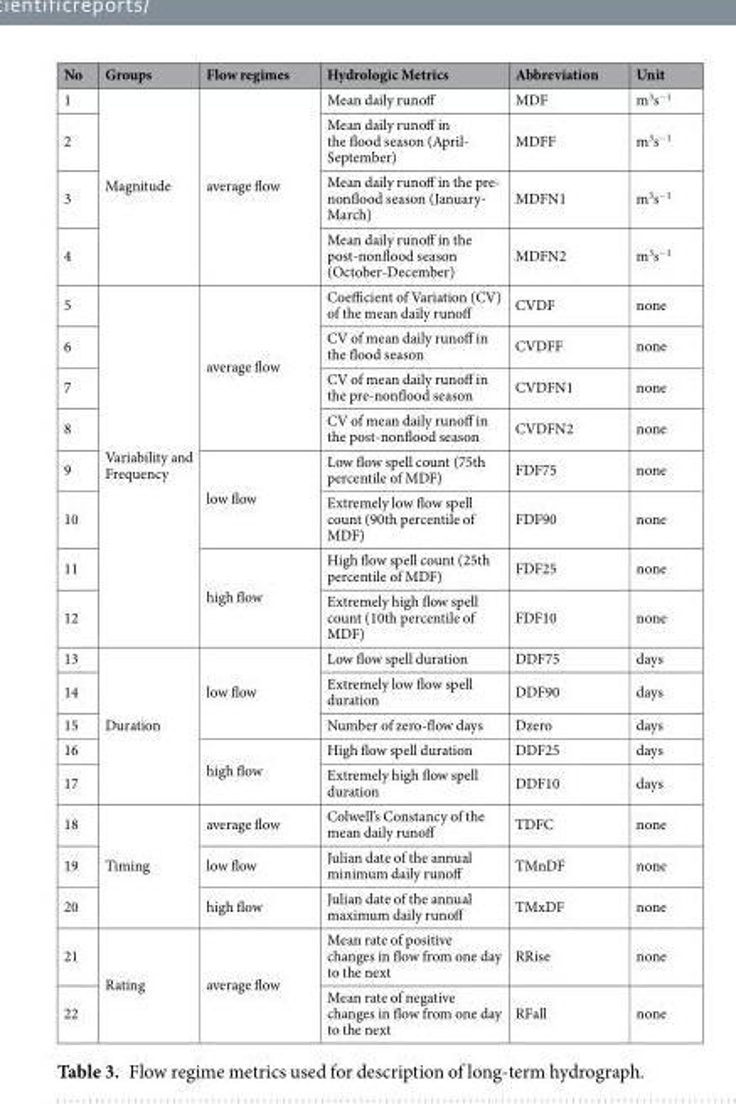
<table><thead><tr><td>No</td><td>Groups</td><td>Flow regimes</td><td>Hydrologic Metrics</td><td>Abbreviation</td><td>Unit</td></tr></thead><tbody><tr><td>1</td><td rowspan="4">Magnitude</td><td rowspan="4">average flow</td><td>Mean daily runoff</td><td>MDF</td><td>m<sup>3</sup>s<sup>−1</sup></td></tr><tr><td>2</td><td>Mean daily runoff in the flood season (April- September)</td><td>MDFF</td><td>m<sup>3</sup>s<sup>−1</sup></td></tr><tr><td>3</td><td>Mean daily runoff in the pre- nonflood season (January- March)</td><td>MDFN1</td><td>m<sup>3</sup>s<sup>−1</sup></td></tr><tr><td>4</td><td>Mean daily runoff in the post-nonflood season (October-December)</td><td>MDFN2</td><td>m<sup>3</sup>s<sup>−1</sup></td></tr><tr><td>5</td><td rowspan="8">Variability and Frequency</td><td rowspan="4">average flow</td><td>Coefficient of Variation (CV) of the mean daily runoff</td><td>CVDF</td><td>none</td></tr><tr><td>6</td><td>CV of mean daily runoff in the flood season</td><td>CVDFF</td><td>none</td></tr><tr><td>7</td><td>CV of mean daily runoff in the pre-nonflood season</td><td>CVDFN1</td><td>none</td></tr><tr><td>8</td><td>CV of mean daily runoff in the post-nonflood season</td><td>CVDFN2</td><td>none</td></tr><tr><td>9</td><td rowspan="2">low flow</td><td>Low flow spell count (75th percentile of MDF)</td><td>FDF75</td><td>none</td></tr><tr><td>10</td><td>Extremely low flow spell count (90th percentile of MDF)</td><td>FDF90</td><td>none</td></tr><tr><td>11</td><td rowspan="2">high flow</td><td>High flow spell count (25th percentile of MDF)</td><td>FDF25</td><td>none</td></tr><tr><td>12</td><td>Extremely high flow spell count (10th percentile of MDF)</td><td>FDF10</td><td>none</td></tr><tr><td>13</td><td rowspan="5">Duration</td><td rowspan="3">low flow</td><td>Low flow spell duration</td><td>DDF75</td><td>days</td></tr><tr><td>14</td><td>Extremely low flow spell duration</td><td>DDF90</td><td>days</td></tr><tr><td>15</td><td>Number of zero-flow days</td><td>Dzero</td><td>days</td></tr><tr><td>16</td><td rowspan="2">high flow</td><td>High flow spell duration</td><td>DDF25</td><td>days</td></tr><tr><td>17</td><td>Extremely high flow spell duration</td><td>DDF10</td><td>days</td></tr><tr><td>18</td><td rowspan="3">Timing</td><td>average flow</td><td>Colwell’s Constancy of the mean daily runoff</td><td>TDFC</td><td>none</td></tr><tr><td>19</td><td>low flow</td><td>Julian date of the annual minimum daily runoff</td><td>TMnDF</td><td>none</td></tr><tr><td>20</td><td>high flow</td><td>Julian date of the annual maximum daily runoff</td><td>TMxDF</td><td>none</td></tr><tr><td>21</td><td rowspan="2">Rating</td><td rowspan="2">average flow</td><td>Mean rate of positive changes in flow from one day to the next</td><td>RRise</td><td>none</td></tr><tr><td>22</td><td>Mean rate of negative changes in flow from one day to the next</td><td>RFall</td><td>none</td></tr></tbody></table>